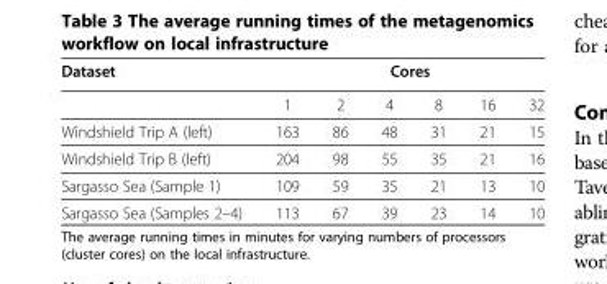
<table><thead><tr><td rowspan="2">Dataset</td><td colspan="6">Cores</td></tr><tr><td>1</td><td>2</td><td>4</td><td>8</td><td>16</td><td>32</td></tr></thead><tbody><tr><td>Windshield Trip A (left)</td><td>163</td><td>86</td><td>48</td><td>31</td><td>21</td><td>15</td></tr><tr><td>Windshield Trip B (left)</td><td>204</td><td>98</td><td>55</td><td>35</td><td>21</td><td>16</td></tr><tr><td>Sargasso Sea (Sample 1)</td><td>109</td><td>59</td><td>35</td><td>21</td><td>13</td><td>10</td></tr><tr><td>Sargasso Sea (Samples 2–4)</td><td>113</td><td>67</td><td>39</td><td>23</td><td>14</td><td>10</td></tr></tbody></table>